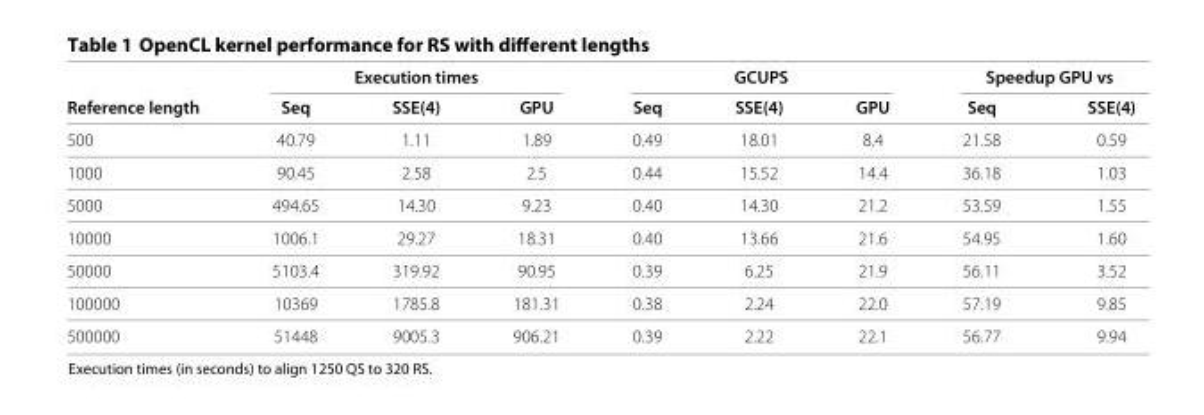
<table><thead><tr><td rowspan="2">Reference length</td><td colspan="3">Execution times</td><td colspan="3">GCUPS</td><td colspan="2">Speedup GPU vs</td></tr><tr><td>Seq</td><td>SSE(4)</td><td>GPU</td><td>Seq</td><td>SSE(4)</td><td>GPU</td><td>Seq</td><td>SSE(4)</td></tr></thead><tbody><tr><td>500</td><td>40.79</td><td>1.11</td><td>1.89</td><td>0.49</td><td>18.01</td><td>8.4</td><td>21.58</td><td>0.59</td></tr><tr><td>1000</td><td>90.45</td><td>2.58</td><td>2.5</td><td>0.44</td><td>15.52</td><td>14.4</td><td>36.18</td><td>1.03</td></tr><tr><td>5000</td><td>494.65</td><td>14.30</td><td>9.23</td><td>0.40</td><td>14.30</td><td>21.2</td><td>53.59</td><td>1.55</td></tr><tr><td>10000</td><td>1006.1</td><td>29.27</td><td>18.31</td><td>0.40</td><td>13.66</td><td>21.6</td><td>54.95</td><td>1.60</td></tr><tr><td>50000</td><td>5103.4</td><td>319.92</td><td>90.95</td><td>0.39</td><td>6.25</td><td>21.9</td><td>56.11</td><td>3.52</td></tr><tr><td>100000</td><td>10369</td><td>1785.8</td><td>181.31</td><td>0.38</td><td>2.24</td><td>22.0</td><td>57.19</td><td>9.85</td></tr><tr><td>500000</td><td>51448</td><td>9005.3</td><td>906.21</td><td>0.39</td><td>2.22</td><td>22.1</td><td>56.77</td><td>9.94</td></tr></tbody></table>